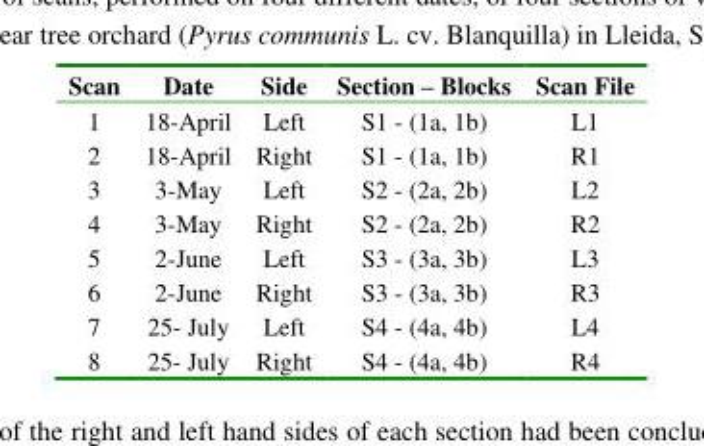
<table><thead><tr><td>Scan</td><td>Date</td><td>Side</td><td>Section – Blocks</td><td>Scan File</td></tr></thead><tbody><tr><td>1</td><td>18-April</td><td>Left</td><td>S1 - (1a, 1b)</td><td>L1</td></tr><tr><td>2</td><td>18-April</td><td>Right</td><td>S1 - (1a, 1b)</td><td>R1</td></tr><tr><td>3</td><td>3-May</td><td>Left</td><td>S2 - (2a, 2b)</td><td>L2</td></tr><tr><td>4</td><td>3-May</td><td>Right</td><td>S2 - (2a, 2b)</td><td>R2</td></tr><tr><td>5</td><td>2-June</td><td>Left</td><td>S3 - (3a, 3b)</td><td>L3</td></tr><tr><td>6</td><td>2-June</td><td>Right</td><td>S3 - (3a, 3b)</td><td>R3</td></tr><tr><td>7</td><td>25- July</td><td>Left</td><td>S4 - (4a, 4b)</td><td>L4</td></tr><tr><td>8</td><td>25- July</td><td>Right</td><td>S4 - (4a, 4b)</td><td>R4</td></tr></tbody></table>